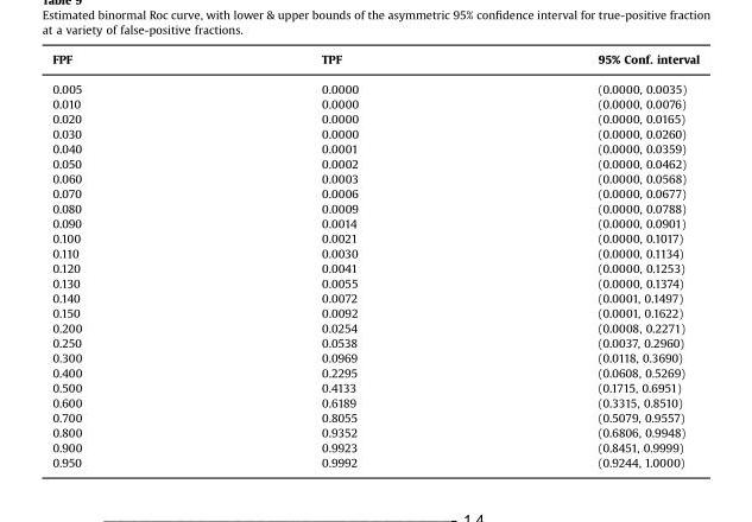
<table><thead><tr><td>FPF</td><td>TPF</td><td>95% Conf. interval</td></tr></thead><tbody><tr><td>0.005</td><td>0.0000</td><td>(0.0000, 0.0035)</td></tr><tr><td>0.010</td><td>0.0000</td><td>(0.0000, 0.0076)</td></tr><tr><td>0.020</td><td>0.0000</td><td>(0.0000, 0.0165)</td></tr><tr><td>0.030</td><td>0.0000</td><td>(0.0000, 0.0260)</td></tr><tr><td>0.040</td><td>0.0001</td><td>(0.0000, 0.0359)</td></tr><tr><td>0.050</td><td>0.0002</td><td>(0.0000, 0.0462)</td></tr><tr><td>0.060</td><td>0.0003</td><td>(0.0000, 0.0568)</td></tr><tr><td>0.070</td><td>0.0006</td><td>(0.0000, 0.0677)</td></tr><tr><td>0.080</td><td>0.0009</td><td>(0.0000, 0.0788)</td></tr><tr><td>0.090</td><td>0.0014</td><td>(0.0000, 0.0901)</td></tr><tr><td>0.100</td><td>0.0021</td><td>(0.0000, 0.1017)</td></tr><tr><td>0.110</td><td>0.0030</td><td>(0.0000, 0.1134)</td></tr><tr><td>0.120</td><td>0.0041</td><td>(0.0000, 0.1253)</td></tr><tr><td>0.130</td><td>0.0055</td><td>(0.0000, 0.1374)</td></tr><tr><td>0.140</td><td>0.0072</td><td>(0.0001, 0.1497)</td></tr><tr><td>0.150</td><td>0.0092</td><td>(0.0001, 0.1622)</td></tr><tr><td>0.200</td><td>0.0254</td><td>(0.0008, 0.2271)</td></tr><tr><td>0.250</td><td>0.0538</td><td>(0.0037, 0.2960)</td></tr><tr><td>0.300</td><td>0.0969</td><td>(0.0118, 0.3690)</td></tr><tr><td>0.400</td><td>0.2295</td><td>(0.0608, 0.5269)</td></tr><tr><td>0.500</td><td>0.4133</td><td>(0.1715, 0.6951)</td></tr><tr><td>0.600</td><td>0.6189</td><td>(0.3315, 0.8510)</td></tr><tr><td>0.700</td><td>0.8055</td><td>(0.5079, 0.9557)</td></tr><tr><td>0.800</td><td>0.9352</td><td>(0.6806, 0.9948)</td></tr><tr><td>0.900</td><td>0.9923</td><td>(0.8451, 0.9999)</td></tr><tr><td>0.950</td><td>0.9992</td><td>(0.9244, 1.0000)</td></tr></tbody></table>